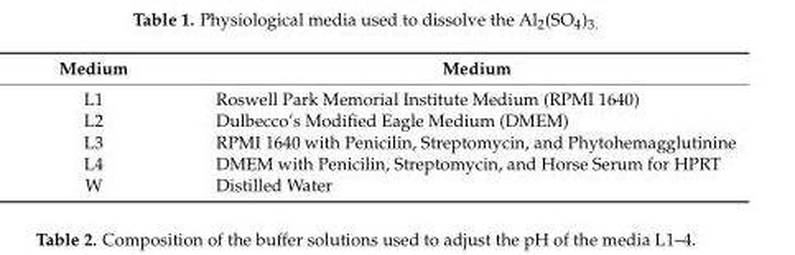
<table><thead><tr><td>Medium</td><td>Medium</td></tr></thead><tbody><tr><td>L1</td><td>Roswell Park Memorial Institute Medium (RPMI 1640)</td></tr><tr><td>L2</td><td>Dulbecco’s Modified Eagle Medium (DMEM)</td></tr><tr><td>L3</td><td>RPMI 1640 with Penicilin, Streptomycin, and Phytohemagglutinine</td></tr><tr><td>L4</td><td>DMEM with Penicilin, Streptomycin, and Horse Serum for HPRT</td></tr><tr><td>W</td><td>Distilled Water</td></tr></tbody></table>